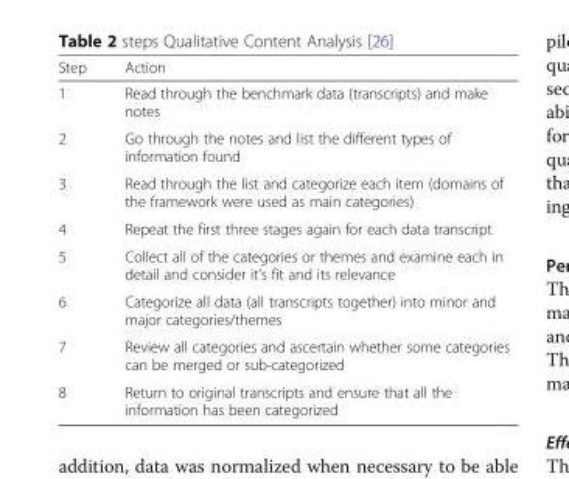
<table><thead><tr><td>Step</td><td>Action</td></tr></thead><tbody><tr><td>1</td><td>Read through the benchmark data (transcripts) and make notes</td></tr><tr><td>2</td><td>Go through the notes and list the different types of information found</td></tr><tr><td>3</td><td>Read through the list and categorize each item (domains of the framework were used as main categories)</td></tr><tr><td>4</td><td>Repeat the first three stages again for each data transcript</td></tr><tr><td>5</td><td>Collect all of the categories or themes and examine each in detail and consider it’s fit and its relevance</td></tr><tr><td>6</td><td>Categorize all data (all transcripts together) into minor and major categories/themes</td></tr><tr><td>7</td><td>Review all categories and ascertain whether some categories can be merged or sub-categorized</td></tr><tr><td>8</td><td>Return to original transcripts and ensure that all the information has been categorized</td></tr></tbody></table>